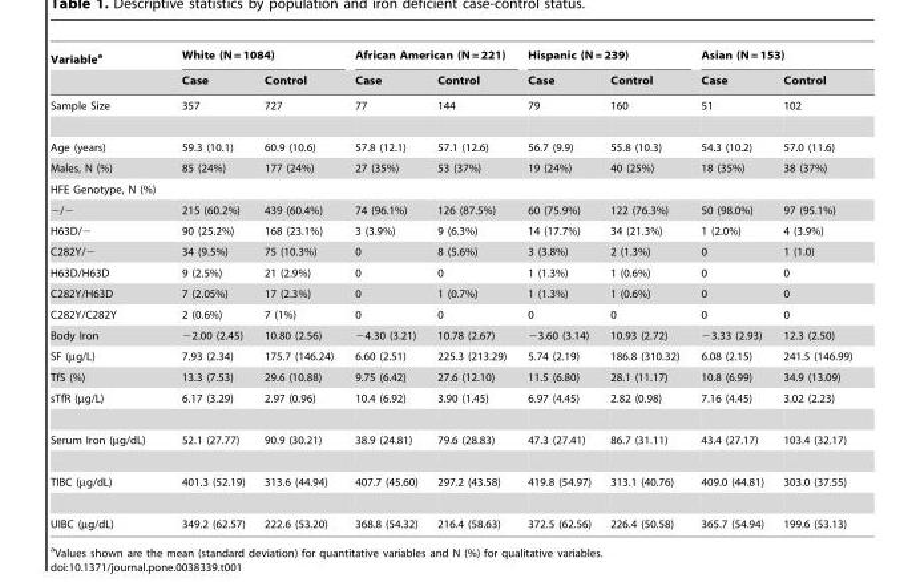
<table><thead><tr><td rowspan="2">Variable<sup>a</sup></td><td colspan="2">White (N = 1084)</td><td colspan="2">African American (N = 221)</td><td colspan="2">Hispanic (N = 239)</td><td colspan="2">Asian (N = 153)</td></tr><tr><td>Case</td><td>Control</td><td>Case</td><td>Control</td><td>Case</td><td>Control</td><td>Case</td><td>Control</td></tr></thead><tbody><tr><td>Sample Size</td><td>357</td><td>727</td><td>77</td><td>144</td><td>79</td><td>160</td><td>51</td><td>102</td></tr><tr><td>Age (years)</td><td>59.3 (10.1)</td><td>60.9 (10.6)</td><td>57.8 (12.1)</td><td>57.1 (12.6)</td><td>56.7 (9.9)</td><td>55.8 (10.3)</td><td>54.3 (10.2)</td><td>57.0 (11.6)</td></tr><tr><td>Males, N (%)</td><td>85 (24%)</td><td>177 (24%)</td><td>27 (35%)</td><td>53 (37%)</td><td>19 (24%)</td><td>40 (25%)</td><td>18 (35%)</td><td>38 (37%)</td></tr><tr><td colspan="9">HFE Genotype, N (%)</td></tr><tr><td>−/−</td><td>215 (60.2%)</td><td>439 (60.4%)</td><td>74 (96.1%)</td><td>126 (87.5%)</td><td>60 (75.9%)</td><td>122 (76.3%)</td><td>50 (98.0%)</td><td>97 (95.1%)</td></tr><tr><td>H63D/−</td><td>90 (25.2%)</td><td>168 (23.1%)</td><td>3 (3.9%)</td><td>9 (6.3%)</td><td>14 (17.7%)</td><td>34 (21.3%)</td><td>1 (2.0%)</td><td>4 (3.9%)</td></tr><tr><td>C282Y/−</td><td>34 (9.5%)</td><td>75 (10.3%)</td><td>0</td><td>8 (5.6%)</td><td>3 (3.8%)</td><td>2 (1.3%)</td><td>0</td><td>1 (1.0)</td></tr><tr><td>H63D/H63D</td><td>9 (2.5%)</td><td>21 (2.9%)</td><td>0</td><td>0</td><td>1 (1.3%)</td><td>1 (0.6%)</td><td>0</td><td>0</td></tr><tr><td>C282Y/H63D</td><td>7 (2.05%)</td><td>17 (2.3%)</td><td>0</td><td>1 (0.7%)</td><td>1 (1.3%)</td><td>1 (0.6%)</td><td>0</td><td>0</td></tr><tr><td>C282Y/C282Y</td><td>2 (0.6%)</td><td>7 (1%)</td><td>0</td><td>0</td><td>0</td><td>0</td><td>0</td><td>0</td></tr><tr><td>Body Iron</td><td>−2.00 (2.45)</td><td>10.80 (2.56)</td><td>−4.30 (3.21)</td><td>10.78 (2.67)</td><td>−3.60 (3.14)</td><td>10.93 (2.72)</td><td>−3.33 (2.93)</td><td>12.3 (2.50)</td></tr><tr><td>SF (µg/L)</td><td>7.93 (2.34)</td><td>175.7 (146.24)</td><td>6.60 (2.51)</td><td>225.3 (213.29)</td><td>5.74 (2.19)</td><td>186.8 (310.32)</td><td>6.08 (2.15)</td><td>241.5 (146.99)</td></tr><tr><td>TfS (%)</td><td>13.3 (7.53)</td><td>29.6 (10.88)</td><td>9.75 (6.42)</td><td>27.6 (12.10)</td><td>11.5 (6.80)</td><td>28.1 (11.17)</td><td>10.8 (6.99)</td><td>34.9 (13.09)</td></tr><tr><td>sTfR (µg/L)</td><td>6.17 (3.29)</td><td>2.97 (0.96)</td><td>10.4 (6.92)</td><td>3.90 (1.45)</td><td>6.97 (4.45)</td><td>2.82 (0.98)</td><td>7.16 (4.45)</td><td>3.02 (2.23)</td></tr><tr><td>Serum Iron (µg/dL)</td><td>52.1 (27.77)</td><td>90.9 (30.21)</td><td>38.9 (24.81)</td><td>79.6 (28.83)</td><td>47.3 (27.41)</td><td>86.7 (31.11)</td><td>43.4 (27.17)</td><td>103.4 (32.17)</td></tr><tr><td>TIBC (µg/dL)</td><td>401.3 (52.19)</td><td>313.6 (44.94)</td><td>407.7 (45.60)</td><td>297.2 (43.58)</td><td>419.8 (54.97)</td><td>313.1 (40.76)</td><td>409.0 (44.81)</td><td>303.0 (37.55)</td></tr><tr><td>UIBC (µg/dL)</td><td>349.2 (62.57)</td><td>222.6 (53.20)</td><td>368.8 (54.32)</td><td>216.4 (58.63)</td><td>372.5 (62.56)</td><td>226.4 (50.58)</td><td>365.7 (54.94)</td><td>199.6 (53.13)</td></tr></tbody></table>